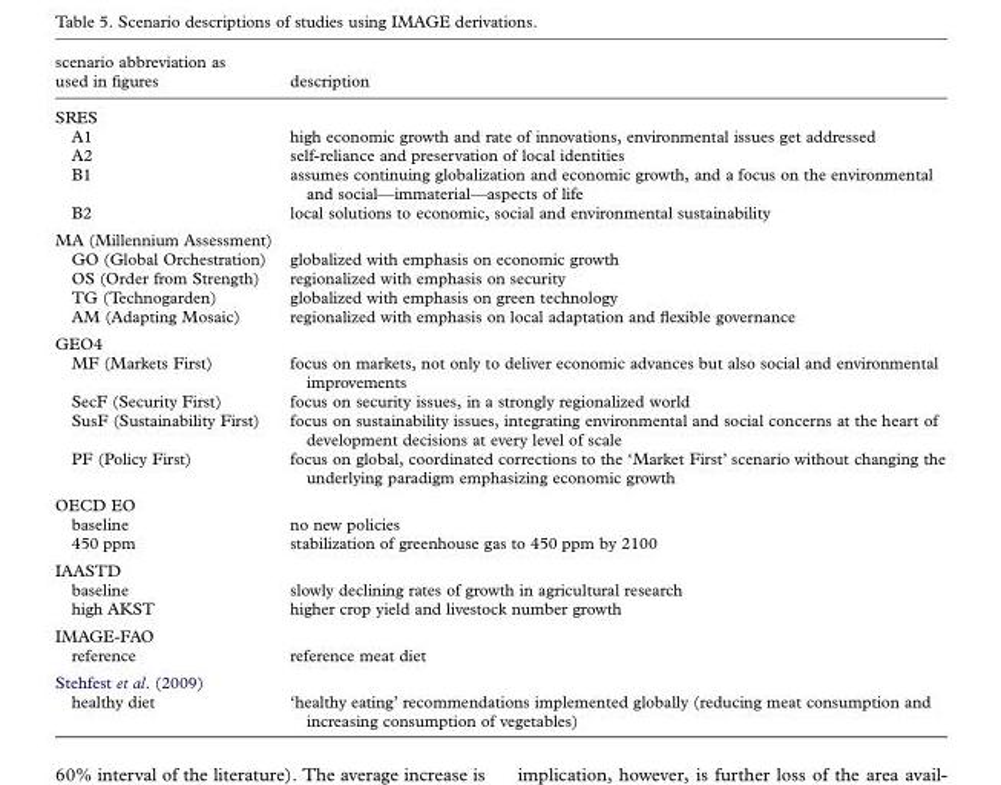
<table><thead><tr><td>scenario abbreviation as used in figures</td><td>description</td></tr></thead><tbody><tr><td colspan="2">SRES</td></tr><tr><td>A1</td><td>high economic growth and rate of innovations, environmental issues get addressed</td></tr><tr><td>A2</td><td>self-reliance and preservation of local identities</td></tr><tr><td>B1</td><td>assumes continuing globalization and economic growth, and a focus on the environmental and social—immaterial—aspects of life</td></tr><tr><td>B2</td><td>local solutions to economic, social and environmental sustainability</td></tr><tr><td colspan="2">MA (Millennium Assessment)</td></tr><tr><td>GO (Global Orchestration)</td><td>globalized with emphasis on economic growth</td></tr><tr><td>OS (Order from Strength)</td><td>regionalized with emphasis on security</td></tr><tr><td>TG (Technogarden)</td><td>globalized with emphasis on green technology</td></tr><tr><td>AM (Adapting Mosaic)</td><td>regionalized with emphasis on local adaptation and flexible governance</td></tr><tr><td colspan="2">GEO4</td></tr><tr><td>MF (Markets First)</td><td>focus on markets, not only to deliver economic advances but also social and environmental improvements</td></tr><tr><td>SecF (Security First)</td><td>focus on security issues, in a strongly regionalized world</td></tr><tr><td>SusF (Sustainability First)</td><td>focus on sustainability issues, integrating environmental and social concerns at the heart of development decisions at every level of scale</td></tr><tr><td>PF (Policy First)</td><td>focus on global, coordinated corrections to the ‘Market First’ scenario without changing the underlying paradigm emphasizing economic growth</td></tr><tr><td colspan="2">OECD EO</td></tr><tr><td>baseline</td><td>no new policies</td></tr><tr><td>450 ppm</td><td>stabilization of greenhouse gas to 450 ppm by 2100</td></tr><tr><td colspan="2">IAASTD</td></tr><tr><td>baseline</td><td>slowly declining rates of growth in agricultural research</td></tr><tr><td>high AKST</td><td>higher crop yield and livestock number growth</td></tr><tr><td colspan="2">IMAGE-FAO</td></tr><tr><td>reference</td><td>reference meat diet</td></tr><tr><td colspan="2">Stehfest et al. (2009)</td></tr><tr><td>healthy diet</td><td>‘healthy eating’ recommendations implemented globally (reducing meat consumption and increasing consumption of vegetables)</td></tr></tbody></table>